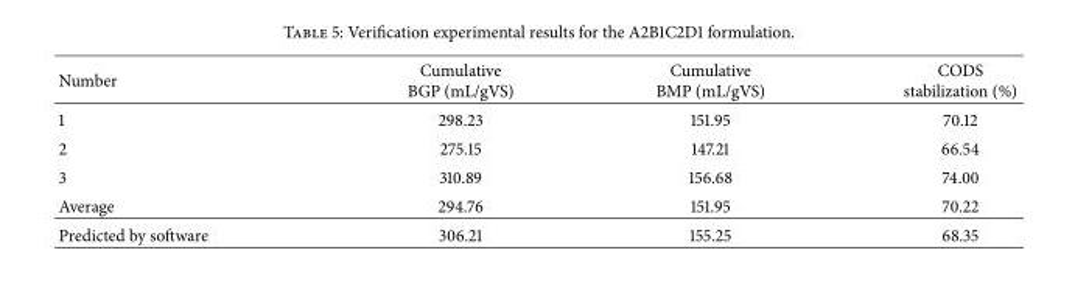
<table><thead><tr><td>Number</td><td>Cumulative BGP (mL/gVS)</td><td>Cumulative BMP (mL/gVS)</td><td>CODS stabilization (%)</td></tr></thead><tbody><tr><td>1</td><td>298.23</td><td>151.95</td><td>70.12</td></tr><tr><td>2</td><td>275.15</td><td>147.21</td><td>66.54</td></tr><tr><td>3</td><td>310.89</td><td>156.68</td><td>74.00</td></tr><tr><td>Average</td><td>294.76</td><td>151.95</td><td>70.22</td></tr><tr><td>Predicted by software</td><td>306.21</td><td>155.25</td><td>68.35</td></tr></tbody></table>